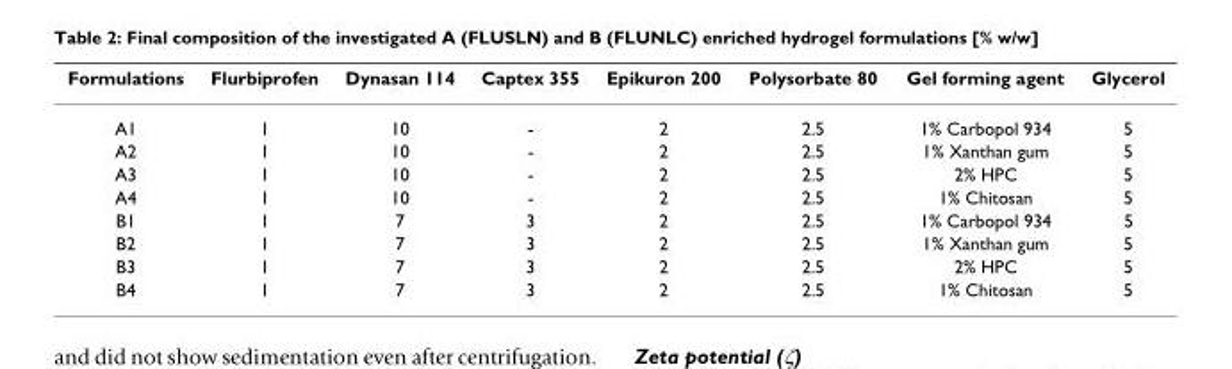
<table><thead><tr><td>Formulations</td><td>Flurbiprofen</td><td>Dynasan 114</td><td>Captex 355</td><td>Epikuron 200</td><td>Polysorbate 80</td><td>Gel forming agent</td><td>Glycerol</td></tr></thead><tbody><tr><td>A1</td><td>1</td><td>10</td><td>-</td><td>2</td><td>2.5</td><td>1% Carbopol 934</td><td>5</td></tr><tr><td>A2</td><td>1</td><td>10</td><td>-</td><td>2</td><td>2.5</td><td>1% Xanthan gum</td><td>5</td></tr><tr><td>A3</td><td>1</td><td>10</td><td>-</td><td>2</td><td>2.5</td><td>2% HPC</td><td>5</td></tr><tr><td>A4</td><td>1</td><td>10</td><td>-</td><td>2</td><td>2.5</td><td>1% Chitosan</td><td>5</td></tr><tr><td>B1</td><td>1</td><td>7</td><td>3</td><td>2</td><td>2.5</td><td>1% Carbopol 934</td><td>5</td></tr><tr><td>B2</td><td>1</td><td>7</td><td>3</td><td>2</td><td>2.5</td><td>1% Xanthan gum</td><td>5</td></tr><tr><td>B3</td><td>1</td><td>7</td><td>3</td><td>2</td><td>2.5</td><td>2% HPC</td><td>5</td></tr><tr><td>B4</td><td>1</td><td>7</td><td>3</td><td>2</td><td>2.5</td><td>1% Chitosan</td><td>5</td></tr></tbody></table>